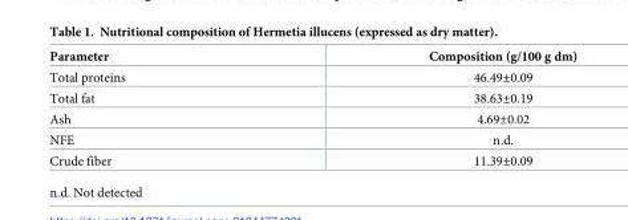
<table><thead><tr><td>Parameter</td><td>Composition (g/100 g dm)</td></tr></thead><tbody><tr><td>Total proteins</td><td>46.49±0.09</td></tr><tr><td>Total fat</td><td>38.63±0.19</td></tr><tr><td>Ash</td><td>4.69±0.02</td></tr><tr><td>NFE</td><td>n.d.</td></tr><tr><td>Crude fiber</td><td>11.39±0.09</td></tr></tbody></table>